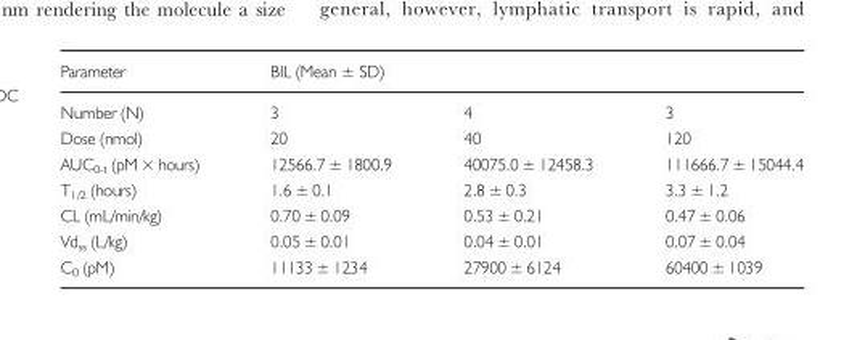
<table><thead><tr><td rowspan="2">Parameter Number (N)</td><td colspan="3">BIL (Mean ± SD)</td></tr><tr><td>3</td><td>4</td><td>3</td></tr></thead><tbody><tr><td>Dose (nmol)</td><td>20</td><td>40</td><td>120</td></tr><tr><td>AUC<sub>0-t</sub> (pM × hours)</td><td>12566.7 ± 1800.9</td><td>40075.0 ± 12458.3</td><td>111666.7 ± 15044.4</td></tr><tr><td>T<sub>1/2</sub> (hours)</td><td>1.6 ± 0.1</td><td>2.8 ± 0.3</td><td>3.3 ± 1.2</td></tr><tr><td>CL (mL/min/kg)</td><td>0.70 ± 0.09</td><td>0.53 ± 0.21</td><td>0.47 ± 0.06</td></tr><tr><td>Vd<sub>ss</sub> (L/kg)</td><td>0.05 ± 0.01</td><td>0.04 ± 0.01</td><td>0.07 ± 0.04</td></tr><tr><td>C<sub>0</sub> (pM)</td><td>11133 ± 1234</td><td>27900 ± 6124</td><td>60400 ± 1039</td></tr></tbody></table>